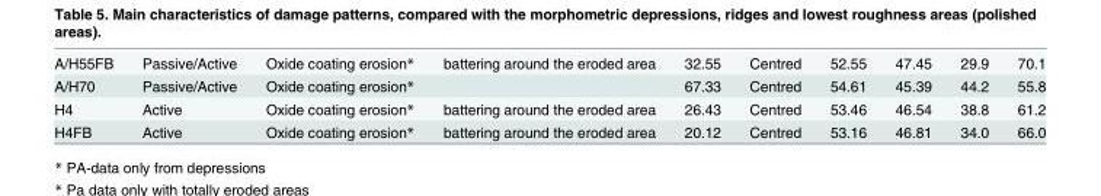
<table><tbody><tr><td>A/H55FB</td><td>Passive/Active</td><td>Oxide coating erosion*</td><td>battering around the eroded area</td><td>32.55</td><td>Centred</td><td>52.55</td><td>47.45</td><td>29.9</td><td>70.1</td></tr><tr><td>A/H70</td><td>Passive/Active</td><td>Oxide coating erosion*</td><td></td><td>67.33</td><td>Centred</td><td>54.61</td><td>45.39</td><td>44.2</td><td>55.8</td></tr><tr><td>H4</td><td>Active</td><td>Oxide coating erosion*</td><td>battering around the eroded area</td><td>26.43</td><td>Centred</td><td>53.46</td><td>46.54</td><td>38.8</td><td>61.2</td></tr><tr><td>H4FB</td><td>Active</td><td>Oxide coating erosion*</td><td>battering around the eroded area</td><td>20.12</td><td>Centred</td><td>53.16</td><td>46.81</td><td>34.0</td><td>66.0</td></tr></tbody></table>